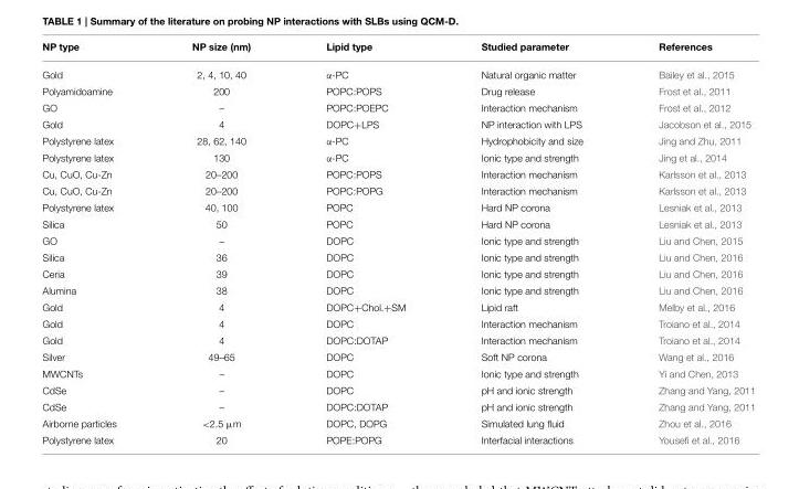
<table><thead><tr><td>NP type</td><td>NP size (nm)</td><td>Lipid type</td><td>Studied parameter</td><td>References</td></tr></thead><tbody><tr><td>Gold</td><td>2, 4, 10, 40</td><td>α-PC</td><td>Natural organic matter</td><td>Bailey et al., 2015</td></tr><tr><td>Polyamidoamine</td><td>200</td><td>POPC:POPS</td><td>Drug release</td><td>Frost et al., 2011</td></tr><tr><td>GO</td><td>–</td><td>POPC:POEPC</td><td>Interaction mechanism</td><td>Frost et al., 2012</td></tr><tr><td>Gold</td><td>4</td><td>DOPC+LPS</td><td>NP interaction with LPS</td><td>Jacobson et al., 2015</td></tr><tr><td>Polystyrene latex</td><td>28, 62, 140</td><td>α-PC</td><td>Hydrophobicity and size</td><td>Jing and Zhu, 2011</td></tr><tr><td>Polystyrene latex</td><td>130</td><td>α-PC</td><td>Ionic type and strength</td><td>Jing et al., 2014</td></tr><tr><td>Cu, CuO, Cu-Zn</td><td>20–200</td><td>POPC:POPS</td><td>Interaction mechanism</td><td>Karlsson et al., 2013</td></tr><tr><td>Cu, CuO, Cu-Zn</td><td>20–200</td><td>POPC:POPG</td><td>Interaction mechanism</td><td>Karlsson et al., 2013</td></tr><tr><td>Polystyrene latex</td><td>40, 100</td><td>POPC</td><td>Hard NP corona</td><td>Lesniak et al., 2013</td></tr><tr><td>Silica</td><td>50</td><td>POPC</td><td>Hard NP corona</td><td>Lesniak et al., 2013</td></tr><tr><td>GO</td><td>–</td><td>DOPC</td><td>Ionic type and strength</td><td>Liu and Chen, 2015</td></tr><tr><td>Silica</td><td>36</td><td>DOPC</td><td>Ionic type and strength</td><td>Liu and Chen, 2016</td></tr><tr><td>Ceria</td><td>39</td><td>DOPC</td><td>Ionic type and strength</td><td>Liu and Chen, 2016</td></tr><tr><td>Alumina</td><td>38</td><td>DOPC</td><td>Ionic type and strength</td><td>Liu and Chen, 2016</td></tr><tr><td>Gold</td><td>4</td><td>DOPC+Chol.+SM</td><td>Lipid raft</td><td>Melby et al., 2016</td></tr><tr><td>Gold</td><td>4</td><td>DOPC</td><td>Interaction mechanism</td><td>Troiano et al., 2014</td></tr><tr><td>Gold</td><td>4</td><td>DOPC:DOTAP</td><td>Interaction mechanism</td><td>Troiano et al., 2014</td></tr><tr><td>Silver</td><td>49–65</td><td>DOPC</td><td>Soft NP corona</td><td>Wang et al., 2016</td></tr><tr><td>MWCNTs</td><td>–</td><td>DOPC</td><td>Ionic type and strength</td><td>Yi and Chen, 2013</td></tr><tr><td>CdSe</td><td>–</td><td>DOPC</td><td>pH and ionic strength</td><td>Zhang and Yang, 2011</td></tr><tr><td>CdSe</td><td>–</td><td>DOPC:DOTAP</td><td>pH and ionic strength</td><td>Zhang and Yang, 2011</td></tr><tr><td>Airborne particles</td><td>&lt;2.5 µm</td><td>DOPC, DOPG</td><td>Simulated lung fluid</td><td>Zhou et al., 2016</td></tr><tr><td>Polystyrene latex</td><td>20</td><td>POPE:POPG</td><td>Interfacial interactions</td><td>Yousefi et al., 2016</td></tr></tbody></table>